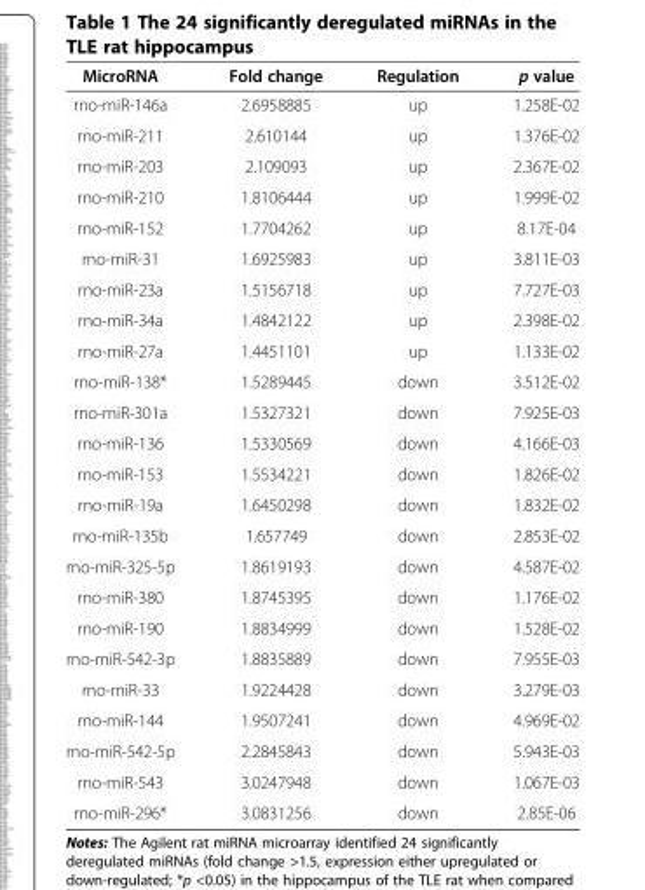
<table><thead><tr><td>MicroRNA</td><td>Fold change</td><td>Regulation</td><td>p value</td></tr></thead><tbody><tr><td>rno-miR-146a</td><td>2.6958885</td><td>up</td><td>1.258E-02</td></tr><tr><td>rno-miR-211</td><td>2.610144</td><td>up</td><td>1.376E-02</td></tr><tr><td>rno-miR-203</td><td>2.109093</td><td>up</td><td>2.367E-02</td></tr><tr><td>rno-miR-210</td><td>1.8106444</td><td>up</td><td>1.999E-02</td></tr><tr><td>rno-miR-152</td><td>1.7704262</td><td>up</td><td>8.17E-04</td></tr><tr><td>rno-miR-31</td><td>1.6925983</td><td>up</td><td>3.811E-03</td></tr><tr><td>rno-miR-23a</td><td>1.5156718</td><td>up</td><td>7.727E-03</td></tr><tr><td>rno-miR-34a</td><td>1.4842122</td><td>up</td><td>2.398E-02</td></tr><tr><td>rno-miR-27a</td><td>1.4451101</td><td>up</td><td>1.133E-02</td></tr><tr><td>rno-miR-138*</td><td>1.5289445</td><td>down</td><td>3.512E-02</td></tr><tr><td>rno-miR-301a</td><td>1.5327321</td><td>down</td><td>7.925E-03</td></tr><tr><td>rno-miR-136</td><td>1.5330569</td><td>down</td><td>4.166E-03</td></tr><tr><td>rno-miR-153</td><td>1.5534221</td><td>down</td><td>1.826E-02</td></tr><tr><td>rno-miR-19a</td><td>1.6450298</td><td>down</td><td>1.832E-02</td></tr><tr><td>rno-miR-135b</td><td>1.657749</td><td>down</td><td>2.853E-02</td></tr><tr><td>rno-miR-325-5p</td><td>1.8619193</td><td>down</td><td>4.587E-02</td></tr><tr><td>rno-miR-380</td><td>1.8745395</td><td>down</td><td>1.176E-02</td></tr><tr><td>rno-miR-190</td><td>1.8834999</td><td>down</td><td>1.528E-02</td></tr><tr><td>rno-miR-542-3p</td><td>1.8835889</td><td>down</td><td>7.955E-03</td></tr><tr><td>rno-miR-33</td><td>1.9224428</td><td>down</td><td>3.279E-03</td></tr><tr><td>rno-miR-144</td><td>1.9507241</td><td>down</td><td>4.969E-02</td></tr><tr><td>rno-miR-542-5p</td><td>2.2845843</td><td>down</td><td>5.943E-03</td></tr><tr><td>rno-miR-543</td><td>3.0247948</td><td>down</td><td>1.067E-03</td></tr><tr><td>rno-miR-296*</td><td>3.0831256</td><td>down</td><td>2.85E-06</td></tr></tbody></table>